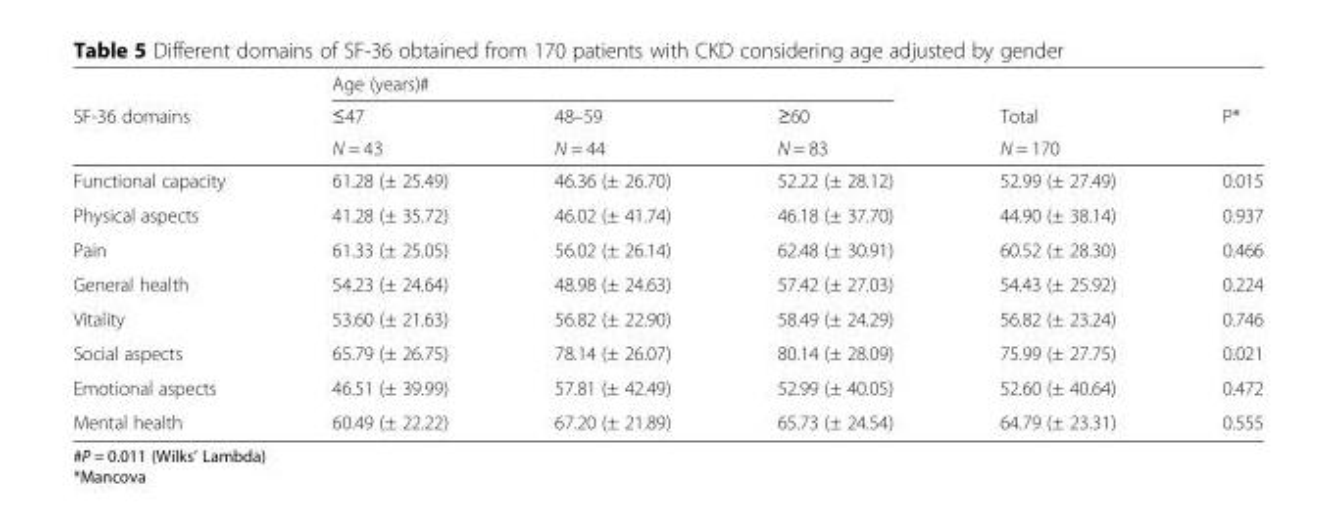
<table><thead><tr><td rowspan="3">SF-36 domains</td><td colspan="3">Age (years)#</td><td rowspan="3">Total N = 170</td><td rowspan="3">P*</td></tr><tr><td rowspan="2">≤47 N = 43</td><td rowspan="2">48–59 N = 44</td><td rowspan="2">≥60 N = 83</td></tr><tr></tr></thead><tbody><tr><td>Functional capacity</td><td>61.28 (± 25.49)</td><td>46.36 (± 26.70)</td><td>52.22 (± 28.12)</td><td>52.99 (± 27.49)</td><td>0.015</td></tr><tr><td>Physical aspects</td><td>41.28 (± 35.72)</td><td>46.02 (± 41.74)</td><td>46.18 (± 37.70)</td><td>44.90 (± 38.14)</td><td>0.937</td></tr><tr><td>Pain</td><td>61.33 (± 25.05)</td><td>56.02 (± 26.14)</td><td>62.48 (± 30.91)</td><td>60.52 (± 28.30)</td><td>0.466</td></tr><tr><td>General health</td><td>54.23 (± 24.64)</td><td>48.98 (± 24.63)</td><td>57.42 (± 27.03)</td><td>54.43 (± 25.92)</td><td>0.224</td></tr><tr><td>Vitality</td><td>53.60 (± 21.63)</td><td>56.82 (± 22.90)</td><td>58.49 (± 24.29)</td><td>56.82 (± 23.24)</td><td>0.746</td></tr><tr><td>Social aspects</td><td>65.79 (± 26.75)</td><td>78.14 (± 26.07)</td><td>80.14 (± 28.09)</td><td>75.99 (± 27.75)</td><td>0.021</td></tr><tr><td>Emotional aspects</td><td>46.51 (± 39.99)</td><td>57.81 (± 42.49)</td><td>52.99 (± 40.05)</td><td>52.60 (± 40.64)</td><td>0.472</td></tr><tr><td>Mental health</td><td>60.49 (± 22.22)</td><td>67.20 (± 21.89)</td><td>65.73 (± 24.54)</td><td>64.79 (± 23.31)</td><td>0.555</td></tr></tbody></table>